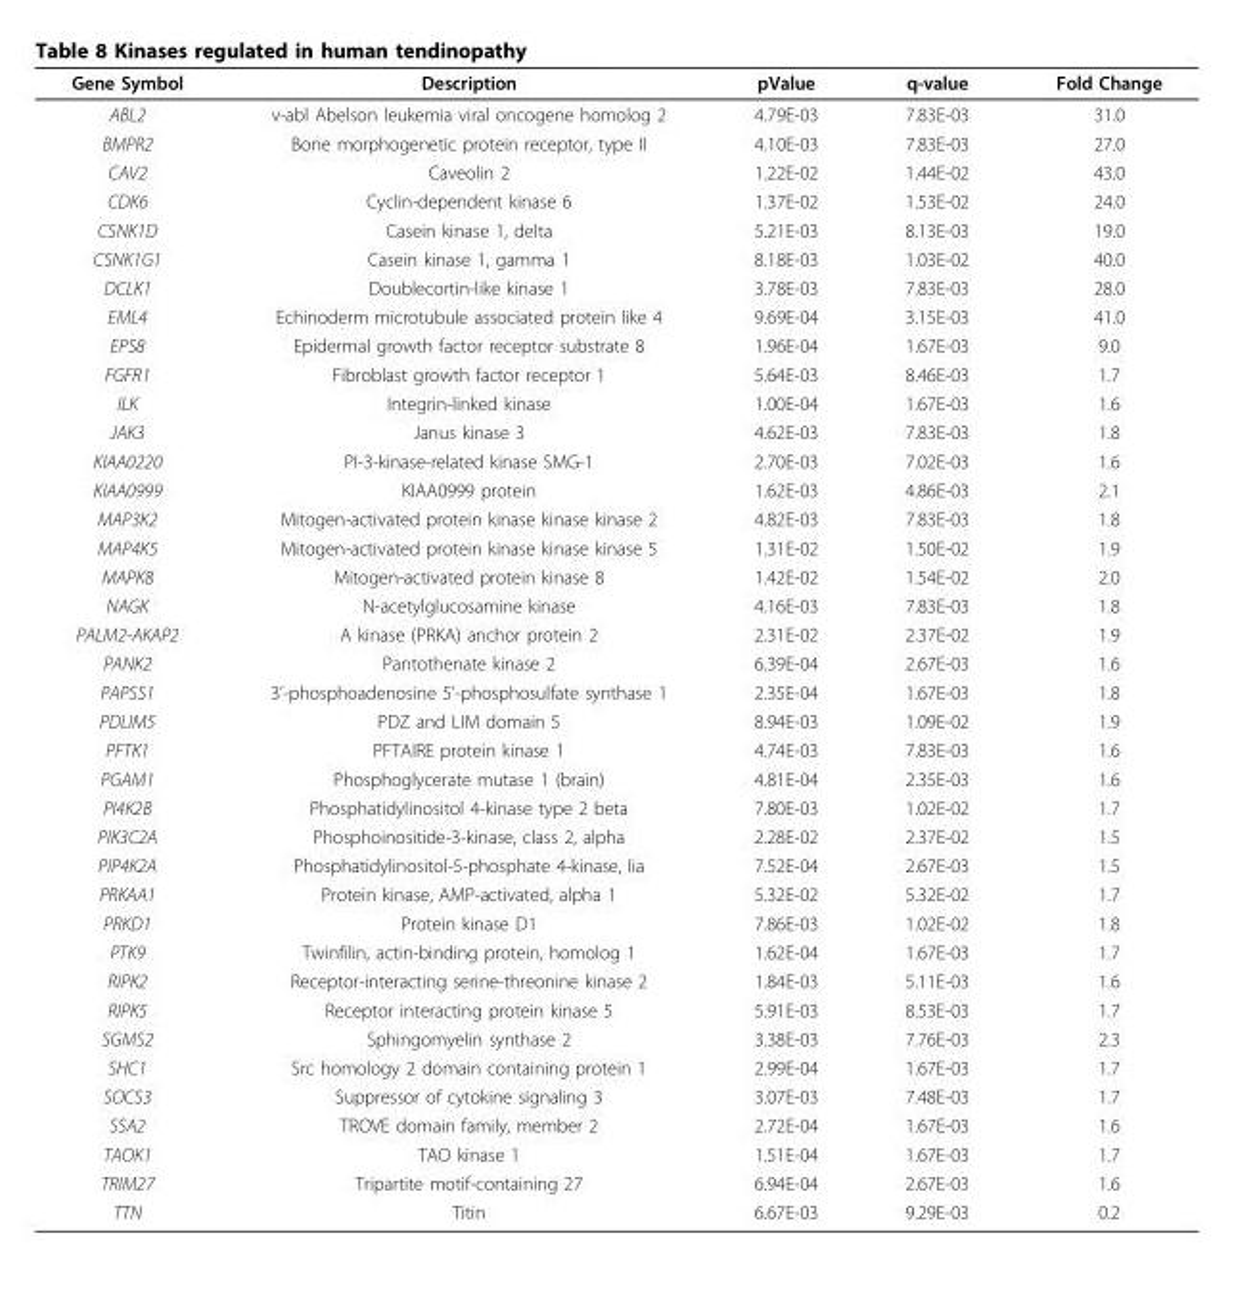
<table><thead><tr><td>Gene Symbol</td><td>Description</td><td>pValue</td><td>q-value</td><td>Fold Change</td></tr></thead><tbody><tr><td>ABL2</td><td>v-abl Abelson leukemia viral oncogene homolog 2</td><td>4.79E-03</td><td>7.83E-03</td><td>31.0</td></tr><tr><td>BMPR2</td><td>Bone morphogenetic protein receptor, type II</td><td>4.10E-03</td><td>7.83E-03</td><td>27.0</td></tr><tr><td>CAV2</td><td>Caveolin 2</td><td>1.22E-02</td><td>1.44E-02</td><td>43.0</td></tr><tr><td>CDK6</td><td>Cyclin-dependent kinase 6</td><td>1.37E-02</td><td>1.53E-02</td><td>24.0</td></tr><tr><td>CSNK1D</td><td>Casein kinase 1, delta</td><td>5.21E-03</td><td>8.13E-03</td><td>19.0</td></tr><tr><td>CSNK1G1</td><td>Casein kinase 1, gamma 1</td><td>8.18E-03</td><td>1.03E-02</td><td>40.0</td></tr><tr><td>DCLK1</td><td>Doublecortin-like kinase 1</td><td>3.78E-03</td><td>7.83E-03</td><td>28.0</td></tr><tr><td>EML4</td><td>Echinoderm microtubule associated protein like 4</td><td>9.69E-04</td><td>3.15E-03</td><td>41.0</td></tr><tr><td>EPS8</td><td>Epidermal growth factor receptor substrate 8</td><td>1.96E-04</td><td>1.67E-03</td><td>9.0</td></tr><tr><td>FGFR1</td><td>Fibroblast growth factor receptor 1</td><td>5.64E-03</td><td>8.46E-03</td><td>1.7</td></tr><tr><td>ILK</td><td>Integrin-linked kinase</td><td>1.00E-04</td><td>1.67E-03</td><td>1.6</td></tr><tr><td>JAK3</td><td>Janus kinase 3</td><td>4.62E-03</td><td>7.83E-03</td><td>1.8</td></tr><tr><td>KIAA0220</td><td>PI-3-kinase-related kinase SMG-1</td><td>2.70E-03</td><td>7.02E-03</td><td>1.6</td></tr><tr><td>KIAA0999</td><td>KIAA0999 protein</td><td>1.62E-03</td><td>4.86E-03</td><td>2.1</td></tr><tr><td>MAP3K2</td><td>Mitogen-activated protein kinase kinase kinase 2</td><td>4.82E-03</td><td>7.83E-03</td><td>1.8</td></tr><tr><td>MAP4K5</td><td>Mitogen-activated protein kinase kinase kinase 5</td><td>1.31E-02</td><td>1.50E-02</td><td>1.9</td></tr><tr><td>MAPK8</td><td>Mitogen-activated protein kinase 8</td><td>1.42E-02</td><td>1.54E-02</td><td>2.0</td></tr><tr><td>NAGK</td><td>N-acetylglucosamine kinase</td><td>4.16E-03</td><td>7.83E-03</td><td>1.8</td></tr><tr><td>PALM2-AKAP2</td><td>A kinase (PRKA) anchor protein 2</td><td>2.31E-02</td><td>2.37E-02</td><td>1.9</td></tr><tr><td>PANK2</td><td>Pantothenate kinase 2</td><td>6.39E-04</td><td>2.67E-03</td><td>1.6</td></tr><tr><td>PAPSS1</td><td>3’-phosphoadenosine 5’-phosphosulfate synthase 1</td><td>2.35E-04</td><td>1.67E-03</td><td>1.8</td></tr><tr><td>PDLIM5</td><td>PDZ and LIM domain 5</td><td>8.94E-03</td><td>1.09E-02</td><td>1.9</td></tr><tr><td>PFTK1</td><td>PFTAIRE protein kinase 1</td><td>4.74E-03</td><td>7.83E-03</td><td>1.6</td></tr><tr><td>PGAM1</td><td>Phosphoglycerate mutase 1 (brain)</td><td>4.81E-04</td><td>2.35E-03</td><td>1.6</td></tr><tr><td>PI4K2B</td><td>Phosphatidylinositol 4-kinase type 2 beta</td><td>7.80E-03</td><td>1.02E-02</td><td>1.7</td></tr><tr><td>PIK3C2A</td><td>Phosphoinositide-3-kinase, class 2, alpha</td><td>2.28E-02</td><td>2.37E-02</td><td>1.5</td></tr><tr><td>PIP4K2A</td><td>Phosphatidylinositol-5-phosphate 4-kinase, Iia</td><td>7.52E-04</td><td>2.67E-03</td><td>1.5</td></tr><tr><td>PRKAA1</td><td>Protein kinase, AMP-activated, alpha 1</td><td>5.32E-02</td><td>5.32E-02</td><td>1.7</td></tr><tr><td>PRKD1</td><td>Protein kinase D1</td><td>7.86E-03</td><td>1.02E-02</td><td>1.8</td></tr><tr><td>PTK9</td><td>Twinfilin, actin-binding protein, homolog 1</td><td>1.62E-04</td><td>1.67E-03</td><td>1.7</td></tr><tr><td>RIPK2</td><td>Receptor-interacting serine-threonine kinase 2</td><td>1.84E-03</td><td>5.11E-03</td><td>1.6</td></tr><tr><td>RIPK5</td><td>Receptor interacting protein kinase 5</td><td>5.91E-03</td><td>8.53E-03</td><td>1.7</td></tr><tr><td>SGMS2</td><td>Sphingomyelin synthase 2</td><td>3.38E-03</td><td>7.76E-03</td><td>2.3</td></tr><tr><td>SHC1</td><td>Src homology 2 domain containing protein 1</td><td>2.99E-04</td><td>1.67E-03</td><td>1.7</td></tr><tr><td>SOCS3</td><td>Suppressor of cytokine signaling 3</td><td>3.07E-03</td><td>7.48E-03</td><td>1.7</td></tr><tr><td>SSA2</td><td>TROVE domain family, member 2</td><td>2.72E-04</td><td>1.67E-03</td><td>1.6</td></tr><tr><td>TAOK1</td><td>TAO kinase 1</td><td>1.51E-04</td><td>1.67E-03</td><td>1.7</td></tr><tr><td>TRIM27</td><td>Tripartite motif-containing 27</td><td>6.94E-04</td><td>2.67E-03</td><td>1.6</td></tr><tr><td>TTN</td><td>Titin</td><td>6.67E-03</td><td>9.29E-03</td><td>0.2</td></tr></tbody></table>